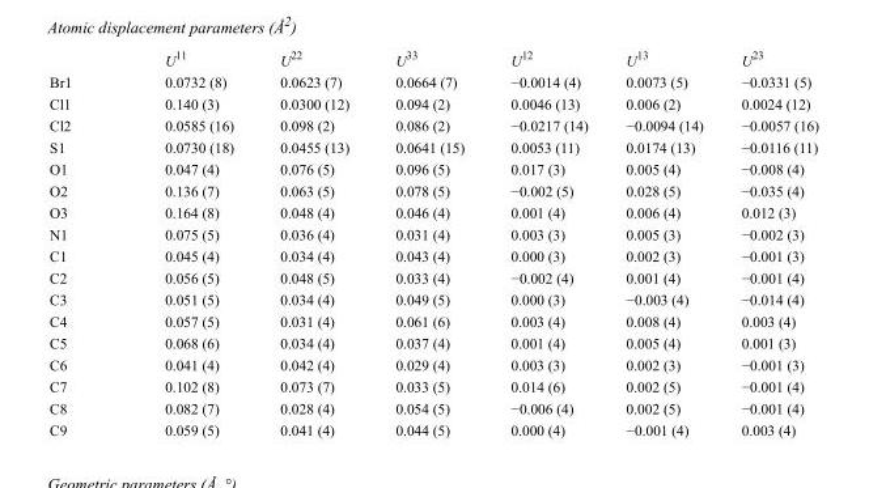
<table><thead><tr><td></td><td>U<sup>11</sup></td><td>U<sup>22</sup></td><td>U<sup>33</sup></td><td>U<sup>12</sup></td><td>U<sup>13</sup></td><td>U<sup>23</sup></td></tr></thead><tbody><tr><td>Br1</td><td>0.0732 (8)</td><td>0.0623 (7)</td><td>0.0664 (7)</td><td>−0.0014 (4)</td><td>0.0073 (5)</td><td>−0.0331 (5)</td></tr><tr><td>Cl1</td><td>0.140 (3)</td><td>0.0300 (12)</td><td>0.094 (2)</td><td>0.0046 (13)</td><td>0.006 (2)</td><td>0.0024 (12)</td></tr><tr><td>Cl2</td><td>0.0585 (16)</td><td>0.098 (2)</td><td>0.086 (2)</td><td>−0.0217 (14)</td><td>−0.0094 (14)</td><td>−0.0057 (16)</td></tr><tr><td>S1</td><td>0.0730 (18)</td><td>0.0455 (13)</td><td>0.0641 (15)</td><td>0.0053 (11)</td><td>0.0174 (13)</td><td>−0.0116 (11)</td></tr><tr><td>O1</td><td>0.047 (4)</td><td>0.076 (5)</td><td>0.096 (5)</td><td>0.017 (3)</td><td>0.005 (4)</td><td>−0.008 (4)</td></tr><tr><td>O2</td><td>0.136 (7)</td><td>0.063 (5)</td><td>0.078 (5)</td><td>−0.002 (5)</td><td>0.028 (5)</td><td>−0.035 (4)</td></tr><tr><td>O3</td><td>0.164 (8)</td><td>0.048 (4)</td><td>0.046 (4)</td><td>0.001 (4)</td><td>0.006 (4)</td><td>0.012 (3)</td></tr><tr><td>N1</td><td>0.075 (5)</td><td>0.036 (4)</td><td>0.031 (4)</td><td>0.003 (3)</td><td>0.005 (3)</td><td>−0.002 (3)</td></tr><tr><td>C1</td><td>0.045 (4)</td><td>0.034 (4)</td><td>0.043 (4)</td><td>0.000 (3)</td><td>0.002 (3)</td><td>−0.001 (3)</td></tr><tr><td>C2</td><td>0.056 (5)</td><td>0.048 (5)</td><td>0.033 (4)</td><td>−0.002 (4)</td><td>0.001 (4)</td><td>−0.001 (4)</td></tr><tr><td>C3</td><td>0.051 (5)</td><td>0.034 (4)</td><td>0.049 (5)</td><td>0.000 (3)</td><td>−0.003 (4)</td><td>−0.014 (4)</td></tr><tr><td>C4</td><td>0.057 (5)</td><td>0.031 (4)</td><td>0.061 (6)</td><td>0.003 (4)</td><td>0.008 (4)</td><td>0.003 (4)</td></tr><tr><td>C5</td><td>0.068 (6)</td><td>0.034 (4)</td><td>0.037 (4)</td><td>0.001 (4)</td><td>0.005 (4)</td><td>0.001 (3)</td></tr><tr><td>C6</td><td>0.041 (4)</td><td>0.042 (4)</td><td>0.029 (4)</td><td>0.003 (3)</td><td>0.002 (3)</td><td>−0.001 (3)</td></tr><tr><td>C7</td><td>0.102 (8)</td><td>0.073 (7)</td><td>0.033 (5)</td><td>0.014 (6)</td><td>0.002 (5)</td><td>−0.001 (4)</td></tr><tr><td>C8</td><td>0.082 (7)</td><td>0.028 (4)</td><td>0.054 (5)</td><td>−0.006 (4)</td><td>0.002 (5)</td><td>−0.001 (4)</td></tr><tr><td>C9</td><td>0.059 (5)</td><td>0.041 (4)</td><td>0.044 (5)</td><td>0.000 (4)</td><td>−0.001 (4)</td><td>0.003 (4)</td></tr></tbody></table>